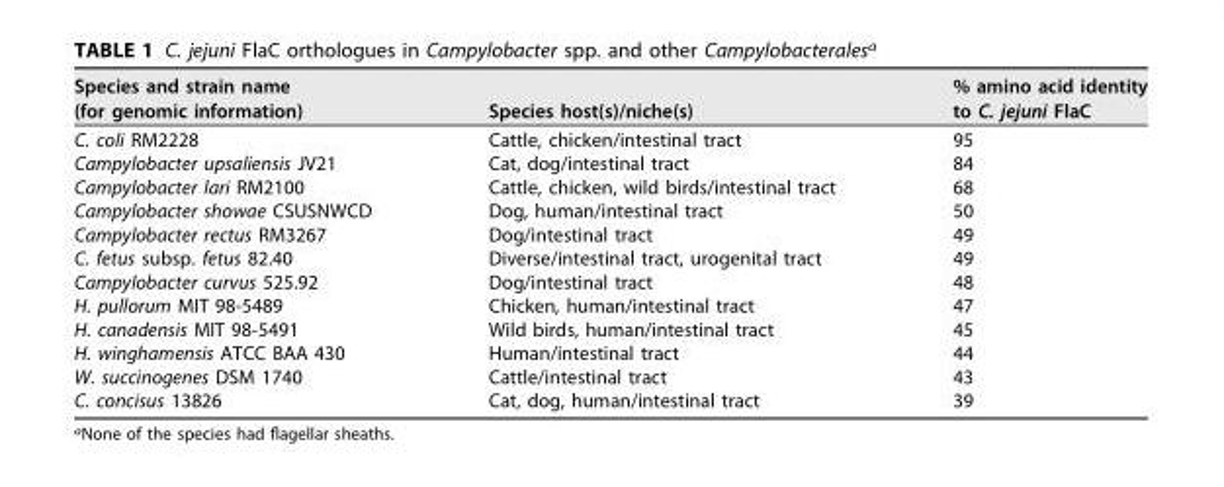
<table><thead><tr><td>Species and strain name (for genomic information)</td><td>Species host(s)/niche(s)</td><td>% amino acid identity to C. jejuni FlaC</td></tr></thead><tbody><tr><td>C. coli RM2228</td><td>Cattle, chicken/intestinal tract</td><td>95</td></tr><tr><td>Campylobacter upsaliensis JV21</td><td>Cat, dog/intestinal tract</td><td>84</td></tr><tr><td>Campylobacter lari RM2100</td><td>Cattle, chicken, wild birds/intestinal tract</td><td>68</td></tr><tr><td>Campylobacter showae CSUSNWCD</td><td>Dog, human/intestinal tract</td><td>50</td></tr><tr><td>Campylobacter rectus RM3267</td><td>Dog/intestinal tract</td><td>49</td></tr><tr><td>C. fetus subsp. fetus 82.40</td><td>Diverse/intestinal tract, urogenital tract</td><td>49</td></tr><tr><td>Campylobacter curvus 525.92</td><td>Dog/intestinal tract</td><td>48</td></tr><tr><td>H. pullorum MIT 98-5489</td><td>Chicken, human/intestinal tract</td><td>47</td></tr><tr><td>H. canadensis MIT 98-5491</td><td>Wild birds, human/intestinal tract</td><td>45</td></tr><tr><td>H. winghamensis ATCC BAA 430</td><td>Human/intestinal tract</td><td>44</td></tr><tr><td>W. succinogenes DSM 1740</td><td>Cattle/intestinal tract</td><td>43</td></tr><tr><td>C. concisus 13826</td><td>Cat, dog, human/intestinal tract</td><td>39</td></tr></tbody></table>